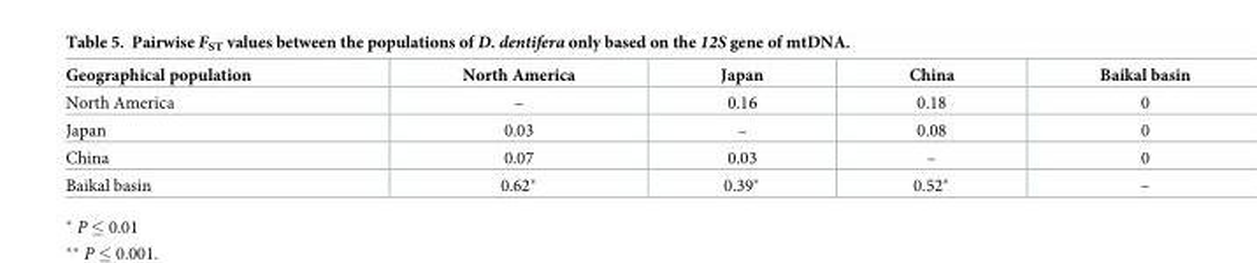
<table><thead><tr><td>Geographical population</td><td>North America</td><td>Japan</td><td>China</td><td>Baikal basin</td></tr></thead><tbody><tr><td>North America</td><td>–</td><td>0.16</td><td>0.18</td><td>0</td></tr><tr><td>Japan</td><td>0.03</td><td>–</td><td>0.08</td><td>0</td></tr><tr><td>China</td><td>0.07</td><td>0.03</td><td>–</td><td>0</td></tr><tr><td>Baikal basin</td><td>0.62*</td><td>0.39*</td><td>0.52*</td><td>–</td></tr></tbody></table>